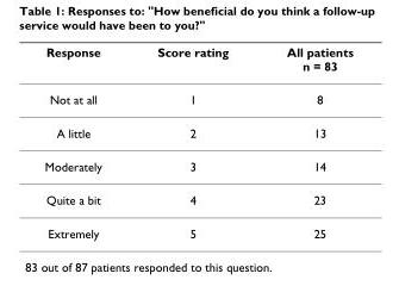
<table><thead><tr><td>Response</td><td>Score rating</td><td>All patients n = 83</td></tr></thead><tbody><tr><td>Not at all</td><td>1</td><td>8</td></tr><tr><td>A little</td><td>2</td><td>13</td></tr><tr><td>Moderately</td><td>3</td><td>14</td></tr><tr><td>Quite a bit</td><td>4</td><td>23</td></tr><tr><td>Extremely</td><td>5</td><td>25</td></tr></tbody></table>